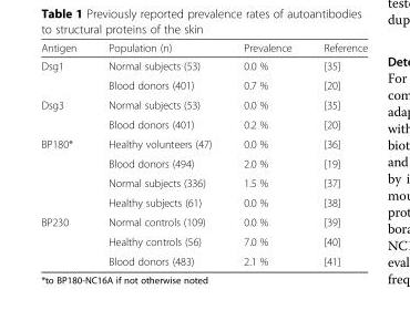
<table><thead><tr><td>Antigen</td><td>Population (n)</td><td>Prevalence</td><td>Reference</td></tr></thead><tbody><tr><td rowspan="2">Dsg1</td><td>Normal subjects (53)</td><td>0.0 %</td><td>[35]</td></tr><tr><td>Blood donors (401)</td><td>0.7 %</td><td>[20]</td></tr><tr><td rowspan="2">Dsg3</td><td>Normal subjects (53)</td><td>0.0 %</td><td>[35]</td></tr><tr><td>Blood donors (401)</td><td>0.2 %</td><td>[20]</td></tr><tr><td rowspan="4">BP180*</td><td>Healthy volunteers (47)</td><td>0.0 %</td><td>[36]</td></tr><tr><td>Blood donors (494)</td><td>2.0 %</td><td>[19]</td></tr><tr><td>Normal subjects (336)</td><td>1.5 %</td><td>[37]</td></tr><tr><td>Healthy subjects (61)</td><td>0.0 %</td><td>[38]</td></tr><tr><td rowspan="3">BP230</td><td>Normal controls (109)</td><td>0.0 %</td><td>[39]</td></tr><tr><td>Healthy controls (56)</td><td>7.0 %</td><td>[40]</td></tr><tr><td>Blood donors (483)</td><td>2.1 %</td><td>[41]</td></tr></tbody></table>